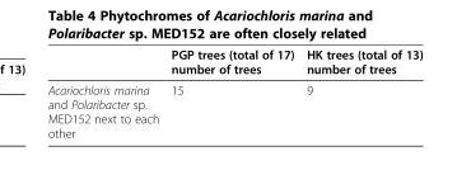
<table><thead><tr><td></td><td>PGP trees (total of 17) number of trees</td><td>HK trees (total of 13) number of trees</td></tr></thead><tbody><tr><td>Acariochloris marina and Polaribacter sp. MED152 next to each other</td><td>15</td><td>9</td></tr></tbody></table>